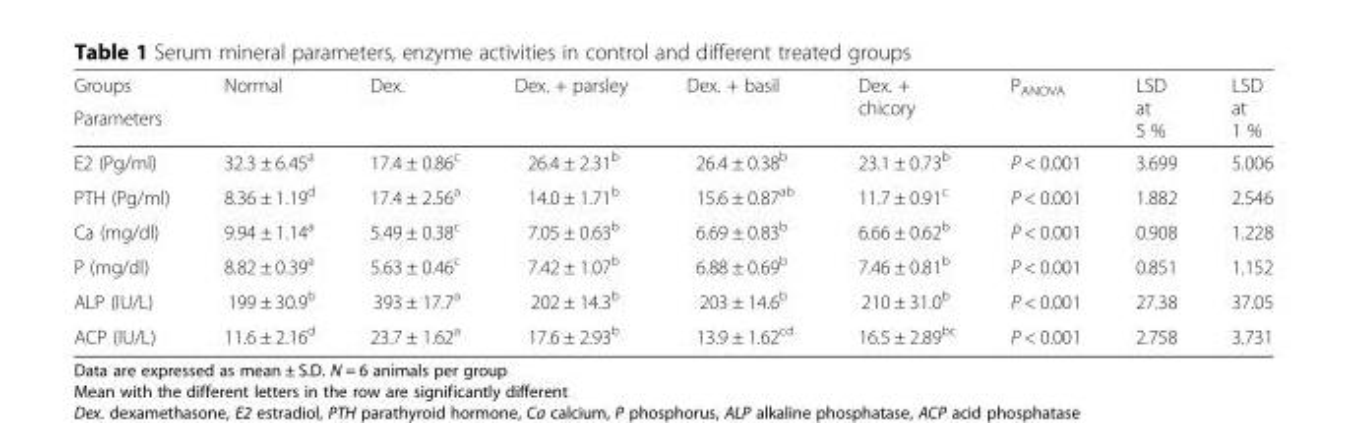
<table><thead><tr><td rowspan="2">Groups Parameters</td><td rowspan="2">Normal</td><td rowspan="2">Dex.</td><td rowspan="2">Dex. + parsley</td><td rowspan="2">Dex. + basil</td><td rowspan="2">Dex. + chicory</td><td rowspan="2">P<sub>ANOVA</sub></td><td rowspan="2">LSD at 5 %</td><td rowspan="2">LSD at 1 %</td></tr><tr></tr></thead><tbody><tr><td>E2 (Pg/ml)</td><td>32.3 ± 6.45<sup>a</sup></td><td>17.4 ± 0.86<sup>c</sup></td><td>26.4 ± 2.31<sup>b</sup></td><td>26.4 ± 0.38<sup>b</sup></td><td>23.1 ± 0.73<sup>b</sup></td><td>P &lt; 0.001</td><td>3.699</td><td>5.006</td></tr><tr><td>PTH (Pg/ml)</td><td>8.36 ± 1.19<sup>d</sup></td><td>17.4 ± 2.56<sup>a</sup></td><td>14.0 ± 1.71<sup>b</sup></td><td>15.6 ± 0.87<sup>ab</sup></td><td>11.7 ± 0.91<sup>c</sup></td><td>P &lt; 0.001</td><td>1.882</td><td>2.546</td></tr><tr><td>Ca (mg/dl)</td><td>9.94 ± 1.14<sup>a</sup></td><td>5.49 ± 0.38<sup>c</sup></td><td>7.05 ± 0.63<sup>b</sup></td><td>6.69 ± 0.83<sup>b</sup></td><td>6.66 ± 0.62<sup>b</sup></td><td>P &lt; 0.001</td><td>0.908</td><td>1.228</td></tr><tr><td>P (mg/dl)</td><td>8.82 ± 0.39<sup>a</sup></td><td>5.63 ± 0.46<sup>c</sup></td><td>7.42 ± 1.07<sup>b</sup></td><td>6.88 ± 0.69<sup>b</sup></td><td>7.46 ± 0.81<sup>b</sup></td><td>P &lt; 0.001</td><td>0.851</td><td>1.152</td></tr><tr><td>ALP (IU/L)</td><td>199 ± 30.9<sup>b</sup></td><td>393 ± 17.7<sup>a</sup></td><td>202 ± 14.3<sup>b</sup></td><td>203 ± 14.6<sup>b</sup></td><td>210 ± 31.0<sup>b</sup></td><td>P &lt; 0.001</td><td>27.38</td><td>37.05</td></tr><tr><td>ACP (IU/L)</td><td>11.6 ± 2.16<sup>d</sup></td><td>23.7 ± 1.62<sup>a</sup></td><td>17.6 ± 2.93<sup>b</sup></td><td>13.9 ± 1.62<sup>cd</sup></td><td>16.5 ± 2.89<sup>bc</sup></td><td>P &lt; 0.001</td><td>2.758</td><td>3.731</td></tr></tbody></table>